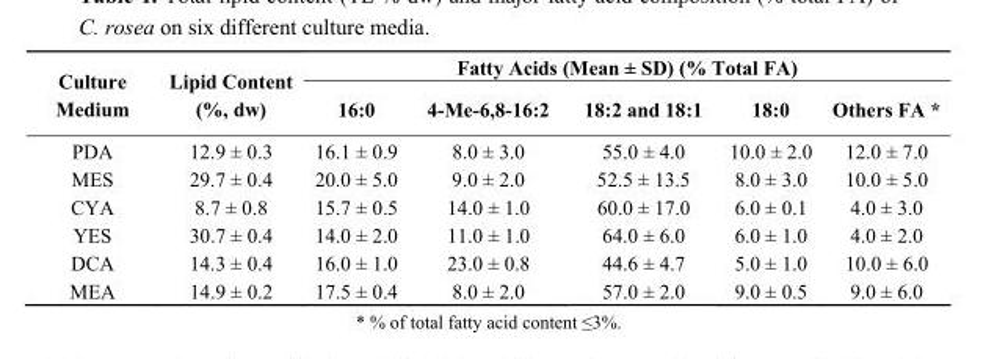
<table><thead><tr><td rowspan="2">Culture Medium</td><td rowspan="2">Lipid Content (%, dw)</td><td colspan="5">Fatty Acids (Mean ± SD) (% Total FA)</td></tr><tr><td>16:0</td><td>4-Me-6,8-16:2</td><td>18:2 and 18:1</td><td>18:0</td><td>Others FA *</td></tr></thead><tbody><tr><td>PDA</td><td>12.9 ± 0.3</td><td>16.1 ± 0.9</td><td>8.0 ± 3.0</td><td>55.0 ± 4.0</td><td>10.0 ± 2.0</td><td>12.0 ± 7.0</td></tr><tr><td>MES</td><td>29.7 ± 0.4</td><td>20.0 ± 5.0</td><td>9.0 ± 2.0</td><td>52.5 ± 13.5</td><td>8.0 ± 3.0</td><td>10.0 ± 5.0</td></tr><tr><td>CYA</td><td>8.7 ± 0.8</td><td>15.7 ± 0.5</td><td>14.0 ± 1.0</td><td>60.0 ± 17.0</td><td>6.0 ± 0.1</td><td>4.0 ± 3.0</td></tr><tr><td>YES</td><td>30.7 ± 0.4</td><td>14.0 ± 2.0</td><td>11.0 ± 1.0</td><td>64.0 ± 6.0</td><td>6.0 ± 1.0</td><td>4.0 ± 2.0</td></tr><tr><td>DCA</td><td>14.3 ± 0.4</td><td>16.0 ± 1.0</td><td>23.0 ± 0.8</td><td>44.6 ± 4.7</td><td>5.0 ± 1.0</td><td>10.0 ± 6.0</td></tr><tr><td>MEA</td><td>14.9 ± 0.2</td><td>17.5 ± 0.4</td><td>8.0 ± 2.0</td><td>57.0 ± 2.0</td><td>9.0 ± 0.5</td><td>9.0 ± 6.0</td></tr></tbody></table>